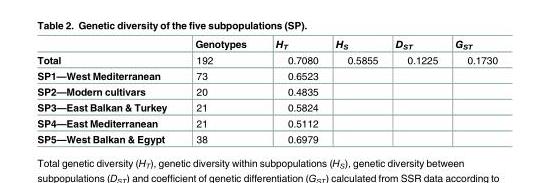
<table><thead><tr><td></td><td>Genotypes</td><td>H<sub>T</sub></td><td>H<sub>S</sub></td><td>D<sub>ST</sub></td><td>G<sub>ST</sub></td></tr></thead><tbody><tr><td>Total</td><td>192</td><td>0.7080</td><td>0.5855</td><td>0.1225</td><td>0.1730</td></tr><tr><td>SP1—West Mediterranean</td><td>73</td><td>0.6523</td><td></td><td></td><td></td></tr><tr><td>SP2—Modern cultivars</td><td>20</td><td>0.4835</td><td></td><td></td><td></td></tr><tr><td>SP3—East Balkan &amp; Turkey</td><td>21</td><td>0.5824</td><td></td><td></td><td></td></tr><tr><td>SP4—East Mediterranean</td><td>21</td><td>0.5112</td><td></td><td></td><td></td></tr><tr><td>SP5—West Balkan &amp; Egypt</td><td>38</td><td>0.6979</td><td></td><td></td><td></td></tr></tbody></table>